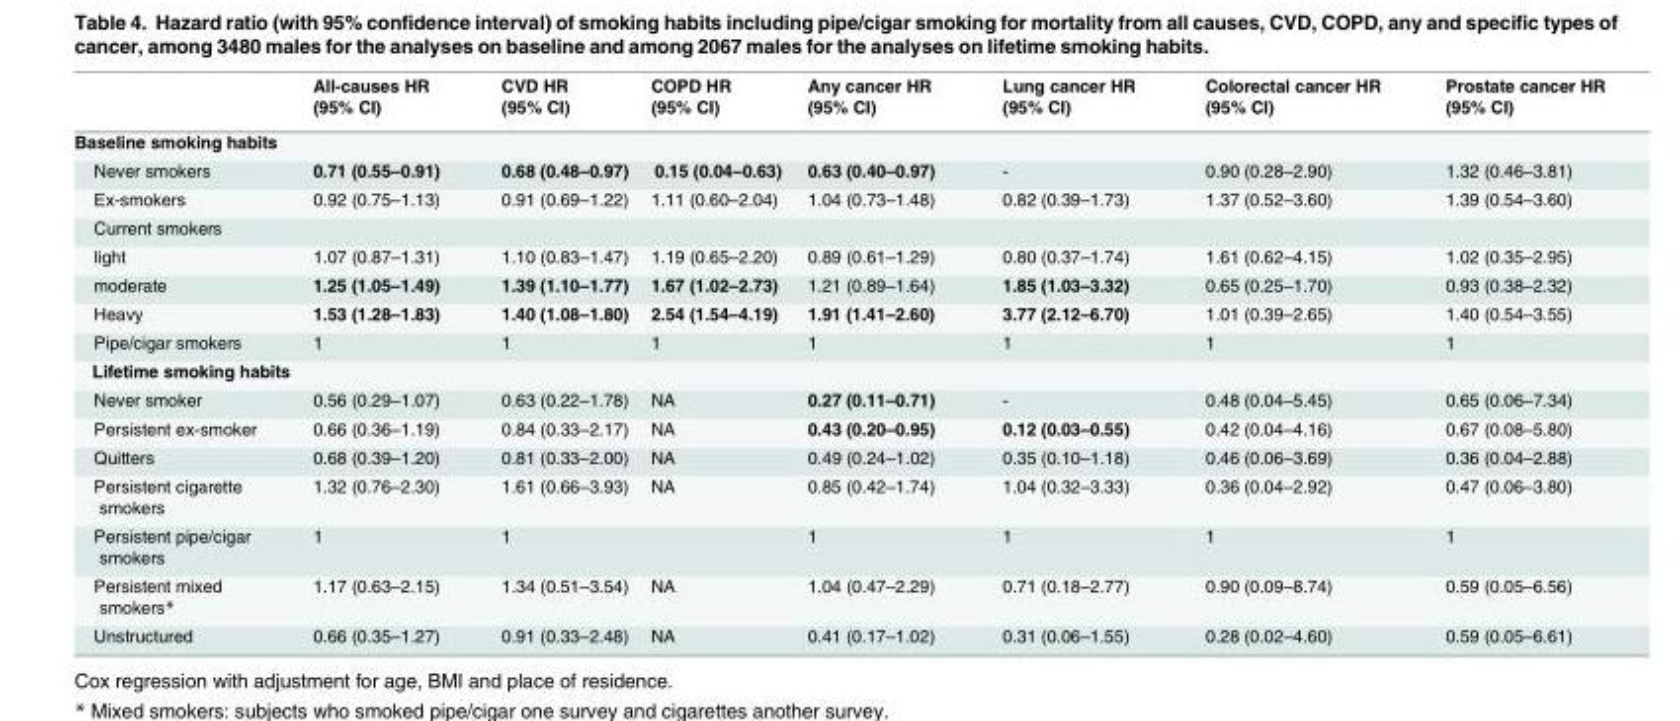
<table><thead><tr><td></td><td>All-causes HR (95% CI)</td><td>CVD HR (95% CI)</td><td>COPD HR (95% CI)</td><td>Any cancer HR (95% CI)</td><td>Lung cancer HR (95% CI)</td><td>Colorectal cancer HR (95% CI)</td><td>Prostate cancer HR (95% CI)</td></tr></thead><tbody><tr><td colspan="8">Baseline smoking habits</td></tr><tr><td>Never smokers</td><td>0.71 (0.55–0.91)</td><td>0.68 (0.48–0.97)</td><td>0.15 (0.04–0.63)</td><td>0.63 (0.40–0.97)</td><td>-</td><td>0.90 (0.28–2.90)</td><td>1.32 (0.46–3.81)</td></tr><tr><td>Ex-smokers</td><td>0.92 (0.75–1.13)</td><td>0.91 (0.69–1.22)</td><td>1.11 (0.60–2.04)</td><td>1.04 (0.73–1.48)</td><td>0.82 (0.39–1.73)</td><td>1.37 (0.52–3.60)</td><td>1.39 (0.54–3.60)</td></tr><tr><td colspan="8">Current smokers</td></tr><tr><td>light</td><td>1.07 (0.87–1.31)</td><td>1.10 (0.83–1.47)</td><td>1.19 (0.65–2.20)</td><td>0.89 (0.61–1.29)</td><td>0.80 (0.37–1.74)</td><td>1.61 (0.62–4.15)</td><td>1.02 (0.35–2.95)</td></tr><tr><td>moderate</td><td>1.25 (1.05–1.49)</td><td>1.39 (1.10–1.77)</td><td>1.67 (1.02–2.73)</td><td>1.21 (0.89–1.64)</td><td>1.85 (1.03–3.32)</td><td>0.65 (0.25–1.70)</td><td>0.93 (0.38–2.32)</td></tr><tr><td>Heavy</td><td>1.53 (1.28–1.83)</td><td>1.40 (1.08–1.80)</td><td>2.54 (1.54–4.19)</td><td>1.91 (1.41–2.60)</td><td>3.77 (2.12–6.70)</td><td>1.01 (0.39–2.65)</td><td>1.40 (0.54–3.55)</td></tr><tr><td>Pipe/cigar smokers</td><td>1</td><td>1</td><td>1</td><td>1</td><td>1</td><td>1</td><td>1</td></tr><tr><td colspan="8">Lifetime smoking habits</td></tr><tr><td>Never smoker</td><td>0.56 (0.29–1.07)</td><td>0.63 (0.22–1.78)</td><td>NA</td><td>0.27 (0.11–0.71)</td><td>-</td><td>0.48 (0.04–5.45)</td><td>0.65 (0.06–7.34)</td></tr><tr><td>Persistent ex-smoker</td><td>0.66 (0.36–1.19)</td><td>0.84 (0.33–2.17)</td><td>NA</td><td>0.43 (0.20–0.95)</td><td>0.12 (0.03–0.55)</td><td>0.42 (0.04–4.16)</td><td>0.67 (0.08–5.80)</td></tr><tr><td>Quitters</td><td>0.68 (0.39–1.20)</td><td>0.81 (0.33–2.00)</td><td>NA</td><td>0.49 (0.24–1.02)</td><td>0.35 (0.10–1.18)</td><td>0.46 (0.06–3.69)</td><td>0.36 (0.04–2.88)</td></tr><tr><td>Persistent cigarette smokers</td><td>1.32 (0.76–2.30)</td><td>1.61 (0.66–3.93)</td><td>NA</td><td>0.85 (0.42–1.74)</td><td>1.04 (0.32–3.33)</td><td>0.36 (0.04–2.92)</td><td>0.47 (0.06–3.80)</td></tr><tr><td>Persistent pipe/cigar smokers</td><td>1</td><td>1</td><td></td><td>1</td><td>1</td><td>1</td><td>1</td></tr><tr><td>Persistent mixed smokers*</td><td>1.17 (0.63–2.15)</td><td>1.34 (0.51–3.54)</td><td>NA</td><td>1.04 (0.47–2.29)</td><td>0.71 (0.18–2.77)</td><td>0.90 (0.09–8.74)</td><td>0.59 (0.05–6.56)</td></tr><tr><td>Unstructured</td><td>0.66 (0.35–1.27)</td><td>0.91 (0.33–2.48)</td><td>NA</td><td>0.41 (0.17–1.02)</td><td>0.31 (0.06–1.55)</td><td>0.28 (0.02–4.60)</td><td>0.59 (0.05–6.61)</td></tr></tbody></table>